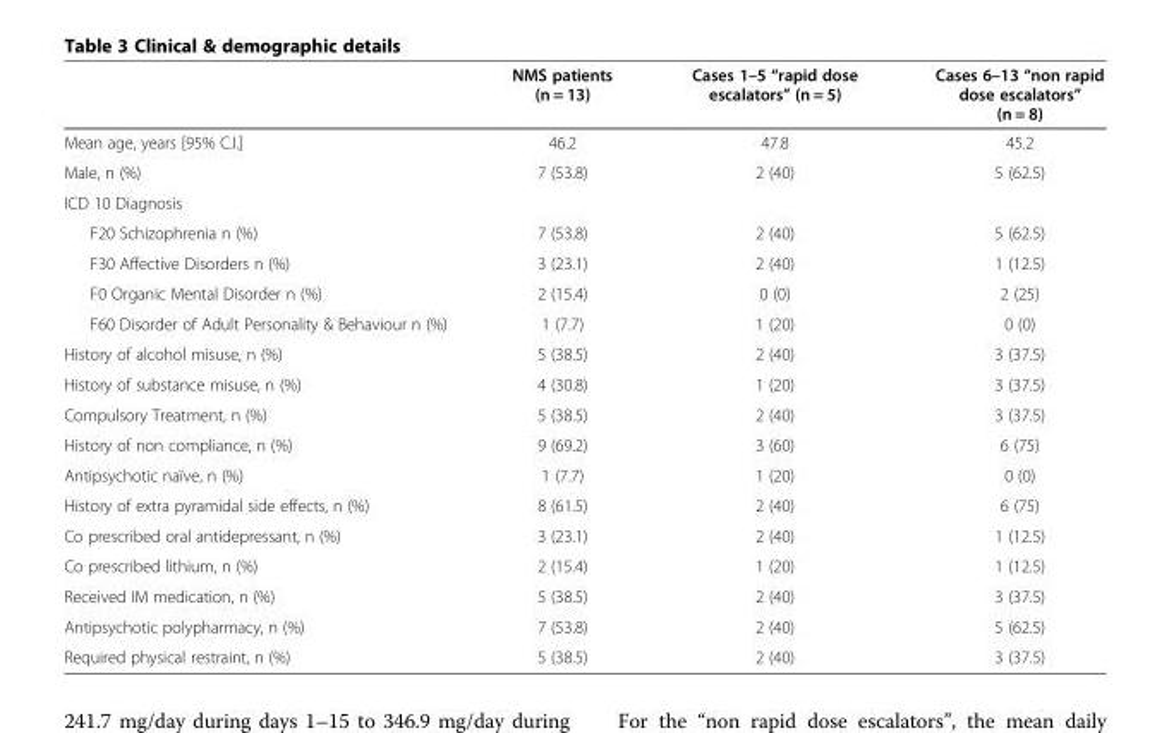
<table><thead><tr><td></td><td>NMS patients (n = 13)</td><td>Cases 1–5 “rapid dose escalators” (n = 5)</td><td>Cases 6–13 “non rapid dose escalators” (n = 8)</td></tr></thead><tbody><tr><td>Mean age, years [95% C.I.]</td><td>46.2</td><td>47.8</td><td>45.2</td></tr><tr><td>Male, n (%)</td><td>7 (53.8)</td><td>2 (40)</td><td>5 (62.5)</td></tr><tr><td colspan="4">ICD 10 Diagnosis</td></tr><tr><td>F20 Schizophrenia n (%)</td><td>7 (53.8)</td><td>2 (40)</td><td>5 (62.5)</td></tr><tr><td>F30 Affective Disorders n (%)</td><td>3 (23.1)</td><td>2 (40)</td><td>1 (12.5)</td></tr><tr><td>F0 Organic Mental Disorder n (%)</td><td>2 (15.4)</td><td>0 (0)</td><td>2 (25)</td></tr><tr><td>F60 Disorder of Adult Personality &amp; Behaviour n (%)</td><td>1 (7.7)</td><td>1 (20)</td><td>0 (0)</td></tr><tr><td>History of alcohol misuse, n (%)</td><td>5 (38.5)</td><td>2 (40)</td><td>3 (37.5)</td></tr><tr><td>History of substance misuse, n (%)</td><td>4 (30.8)</td><td>1 (20)</td><td>3 (37.5)</td></tr><tr><td>Compulsory Treatment, n (%)</td><td>5 (38.5)</td><td>2 (40)</td><td>3 (37.5)</td></tr><tr><td>History of non compliance, n (%)</td><td>9 (69.2)</td><td>3 (60)</td><td>6 (75)</td></tr><tr><td>Antipsychotic naïve, n (%)</td><td>1 (7.7)</td><td>1 (20)</td><td>0 (0)</td></tr><tr><td>History of extra pyramidal side effects, n (%)</td><td>8 (61.5)</td><td>2 (40)</td><td>6 (75)</td></tr><tr><td>Co prescribed oral antidepressant, n (%)</td><td>3 (23.1)</td><td>2 (40)</td><td>1 (12.5)</td></tr><tr><td>Co prescribed lithium, n (%)</td><td>2 (15.4)</td><td>1 (20)</td><td>1 (12.5)</td></tr><tr><td>Received IM medication, n (%)</td><td>5 (38.5)</td><td>2 (40)</td><td>3 (37.5)</td></tr><tr><td>Antipsychotic polypharmacy, n (%)</td><td>7 (53.8)</td><td>2 (40)</td><td>5 (62.5)</td></tr><tr><td>Required physical restraint, n (%)</td><td>5 (38.5)</td><td>2 (40)</td><td>3 (37.5)</td></tr></tbody></table>